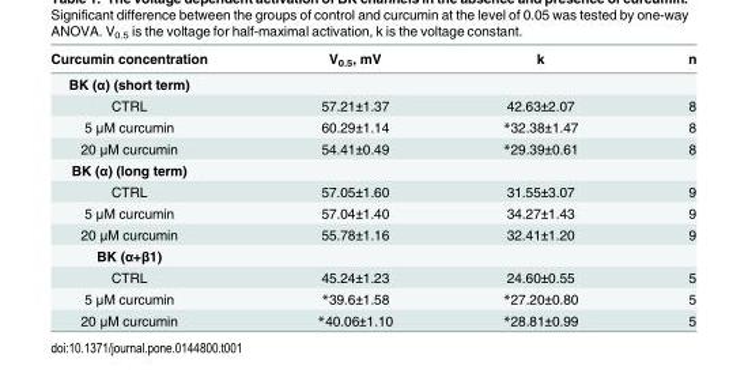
<table><thead><tr><td>Curcumin concentration</td><td>V<sub>0.5</sub>, mV</td><td>k</td><td>n</td></tr></thead><tbody><tr><td colspan="4">BK (α) (short term)</td></tr><tr><td>CTRL</td><td>57.21±1.37</td><td>42.63±2.07</td><td>8</td></tr><tr><td>5 μM curcumin</td><td>60.29±1.14</td><td>*32.38±1.47</td><td>8</td></tr><tr><td>20 μM curcumin</td><td>54.41±0.49</td><td>*29.39±0.61</td><td>8</td></tr><tr><td colspan="4">BK (α) (long term)</td></tr><tr><td>CTRL</td><td>57.05±1.60</td><td>31.55±3.07</td><td>9</td></tr><tr><td>5 μM curcumin</td><td>57.04±1.40</td><td>34.27±1.43</td><td>9</td></tr><tr><td>20 μM curcumin</td><td>55.78±1.16</td><td>32.41±1.20</td><td>9</td></tr><tr><td colspan="4">BK (α+β1)</td></tr><tr><td>CTRL</td><td>45.24±1.23</td><td>24.60±0.55</td><td>5</td></tr><tr><td>5 μM curcumin</td><td>*39.6±1.58</td><td>*27.20±0.80</td><td>5</td></tr><tr><td>20 μM curcumin</td><td>*40.06±1.10</td><td>*28.81±0.99</td><td>5</td></tr></tbody></table>